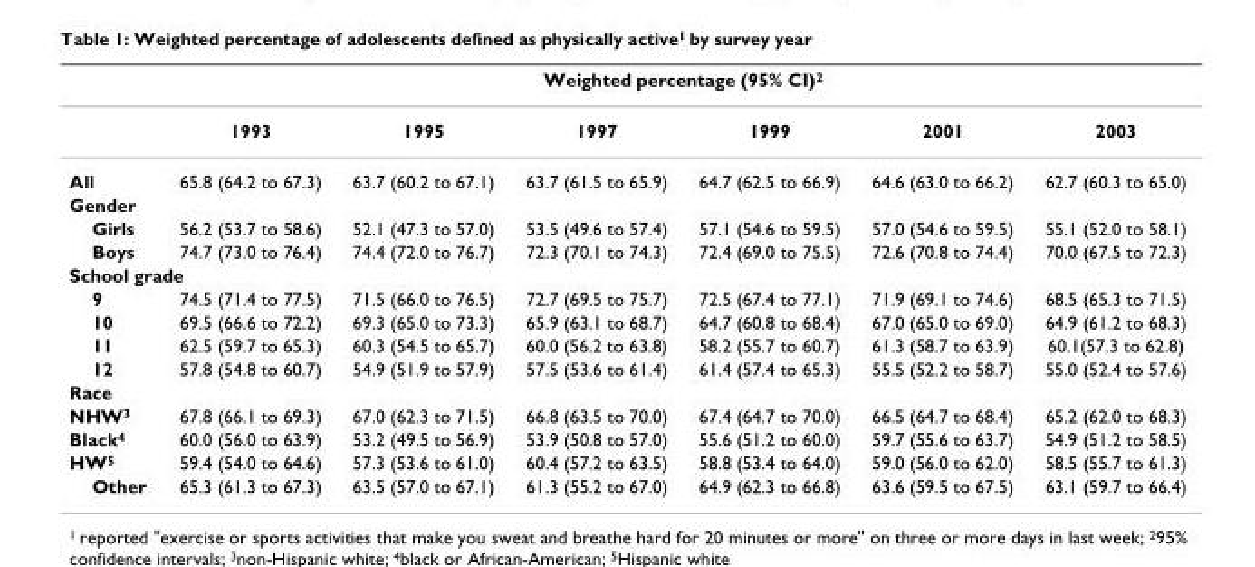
<table><thead><tr><td rowspan="2"></td><td colspan="6">Weighted percentage (95% CI)2</td></tr><tr><td>1993</td><td>1995</td><td>1997</td><td>1999</td><td>2001</td><td>2003</td></tr></thead><tbody><tr><td>All</td><td>65.8 (64.2 to 67.3)</td><td>63.7 (60.2 to 67.1)</td><td>63.7 (61.5 to 65.9)</td><td>64.7 (62.5 to 66.9)</td><td>64.6 (63.0 to 66.2)</td><td>62.7 (60.3 to 65.0)</td></tr><tr><td colspan="7">Gender</td></tr><tr><td>Girls</td><td>56.2 (53.7 to 58.6)</td><td>52.1 (47.3 to 57.0)</td><td>53.5 (49.6 to 57.4)</td><td>57.1 (54.6 to 59.5)</td><td>57.0 (54.6 to 59.5)</td><td>55.1 (52.0 to 58.1)</td></tr><tr><td>Boys</td><td>74.7 (73.0 to 76.4)</td><td>74.4 (72.0 to 76.7)</td><td>72.3 (70.1 to 74.3)</td><td>72.4 (69.0 to 75.5)</td><td>72.6 (70.8 to 74.4)</td><td>70.0 (67.5 to 72.3)</td></tr><tr><td colspan="7">School grade</td></tr><tr><td>9</td><td>74.5 (71.4 to 77.5)</td><td>71.5 (66.0 to 76.5)</td><td>72.7 (69.5 to 75.7)</td><td>72.5 (67.4 to 77.1)</td><td>71.9 (69.1 to 74.6)</td><td>68.5 (65.3 to 71.5)</td></tr><tr><td>10</td><td>69.5 (66.6 to 72.2)</td><td>69.3 (65.0 to 73.3)</td><td>65.9 (63.1 to 68.7)</td><td>64.7 (60.8 to 68.4)</td><td>67.0 (65.0 to 69.0)</td><td>64.9 (61.2 to 68.3)</td></tr><tr><td>11</td><td>62.5 (59.7 to 65.3)</td><td>60.3 (54.5 to 65.7)</td><td>60.0 (56.2 to 63.8)</td><td>58.2 (55.7 to 60.7)</td><td>61.3 (58.7 to 63.9)</td><td>60.1(57.3 to 62.8)</td></tr><tr><td>12</td><td>57.8 (54.8 to 60.7)</td><td>54.9 (51.9 to 57.9)</td><td>57.5 (53.6 to 61.4)</td><td>61.4 (57.4 to 65.3)</td><td>55.5 (52.2 to 58.7)</td><td>55.0 (52.4 to 57.6)</td></tr><tr><td colspan="7">Race</td></tr><tr><td>NHW3</td><td>67.8 (66.1 to 69.3)</td><td>67.0 (62.3 to 71.5)</td><td>66.8 (63.5 to 70.0)</td><td>67.4 (64.7 to 70.0)</td><td>66.5 (64.7 to 68.4)</td><td>65.2 (62.0 to 68.3)</td></tr><tr><td>Black4</td><td>60.0 (56.0 to 63.9)</td><td>53.2 (49.5 to 56.9)</td><td>53.9 (50.8 to 57.0)</td><td>55.6 (51.2 to 60.0)</td><td>59.7 (55.6 to 63.7)</td><td>54.9 (51.2 to 58.5)</td></tr><tr><td>HW5</td><td>59.4 (54.0 to 64.6)</td><td>57.3 (53.6 to 61.0)</td><td>60.4 (57.2 to 63.5)</td><td>58.8 (53.4 to 64.0)</td><td>59.0 (56.0 to 62.0)</td><td>58.5 (55.7 to 61.3)</td></tr><tr><td>Other</td><td>65.3 (61.3 to 67.3)</td><td>63.5 (57.0 to 67.1)</td><td>61.3 (55.2 to 67.0)</td><td>64.9 (62.3 to 66.8)</td><td>63.6 (59.5 to 67.5)</td><td>63.1 (59.7 to 66.4)</td></tr></tbody></table>